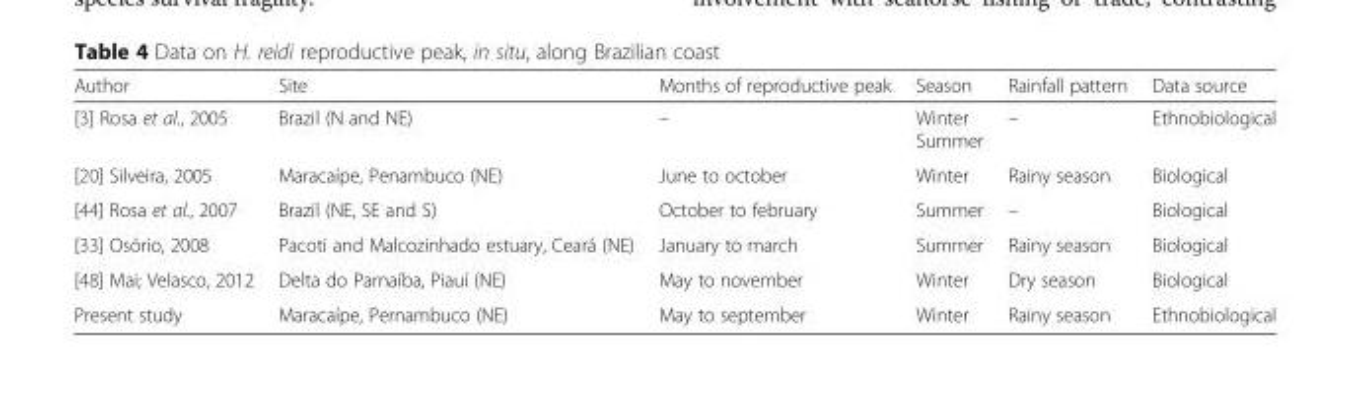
<table><thead><tr><td>Author</td><td>Site</td><td>Months of reproductive peak</td><td>Season</td><td>Rainfall pattern</td><td>Data source</td></tr></thead><tbody><tr><td>[3] Rosa et al., 2005</td><td>Brazil (N and NE)</td><td>–</td><td>Winter Summer</td><td>–</td><td>Ethnobiological</td></tr><tr><td>[20] Silveira, 2005</td><td>Maracaípe, Penambuco (NE)</td><td>June to october</td><td>Winter</td><td>Rainy season</td><td>Biological</td></tr><tr><td>[44] Rosa et al., 2007</td><td>Brazil (NE, SE and S)</td><td>October to february</td><td>Summer</td><td>–</td><td>Biological</td></tr><tr><td>[33] Osório, 2008</td><td>Pacoti and Malcozinhado estuary, Ceará (NE)</td><td>January to march</td><td>Summer</td><td>Rainy season</td><td>Biological</td></tr><tr><td>[48] Mai; Velasco, 2012</td><td>Delta do Parnaíba, Piauí (NE)</td><td>May to november</td><td>Winter</td><td>Dry season</td><td>Biological</td></tr><tr><td>Present study</td><td>Maracaípe, Pernambuco (NE)</td><td>May to september</td><td>Winter</td><td>Rainy season</td><td>Ethnobiological</td></tr></tbody></table>